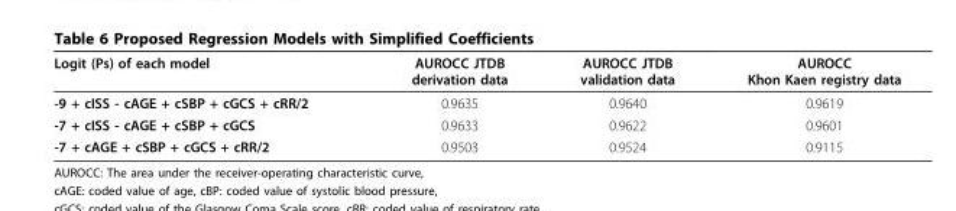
<table><thead><tr><td>Logit (Ps) of each model</td><td>AUROCC JTDB derivation data</td><td>AUROCC JTDB validation data</td><td>AUROCC Khon Kaen registry data</td></tr></thead><tbody><tr><td>-9 + cISS - cAGE + cSBP + cGCS + cRR/2</td><td>0.9635</td><td>0.9640</td><td>0.9619</td></tr><tr><td>-7 + cISS - cAGE + cSBP + cGCS</td><td>0.9633</td><td>0.9622</td><td>0.9601</td></tr><tr><td>-7 + cAGE + cSBP + cGCS + cRR/2</td><td>0.9503</td><td>0.9524</td><td>0.9115</td></tr></tbody></table>